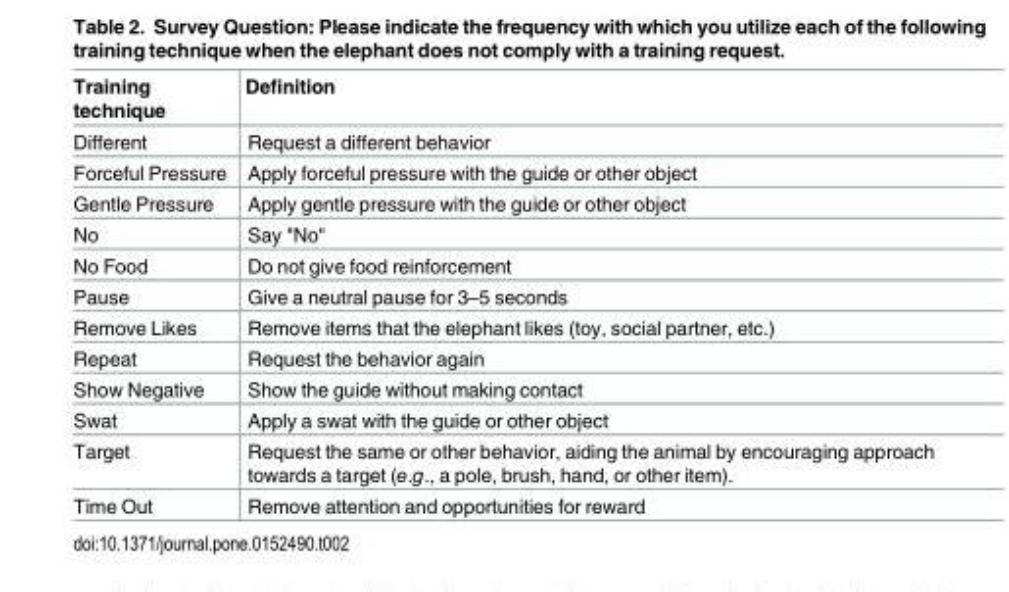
<table><thead><tr><td>Training technique</td><td>Definition</td></tr></thead><tbody><tr><td>Different</td><td>Request a different behavior</td></tr><tr><td>Forceful Pressure</td><td>Apply forceful pressure with the guide or other object</td></tr><tr><td>Gentle Pressure</td><td>Apply gentle pressure with the guide or other object</td></tr><tr><td>No</td><td>Say &quot;No&quot;</td></tr><tr><td>No Food</td><td>Do not give food reinforcement</td></tr><tr><td>Pause</td><td>Give a neutral pause for 3–5 seconds</td></tr><tr><td>Remove Likes</td><td>Remove items that the elephant likes (toy, social partner, etc.)</td></tr><tr><td>Repeat</td><td>Request the behavior again</td></tr><tr><td>Show Negative</td><td>Show the guide without making contact</td></tr><tr><td>Swat</td><td>Apply a swat with the guide or other object</td></tr><tr><td>Target</td><td>Request the same or other behavior, aiding the animal by encouraging approach towards a target (e.g., a pole, brush, hand, or other item).</td></tr><tr><td>Time Out</td><td>Remove attention and opportunities for reward</td></tr></tbody></table>